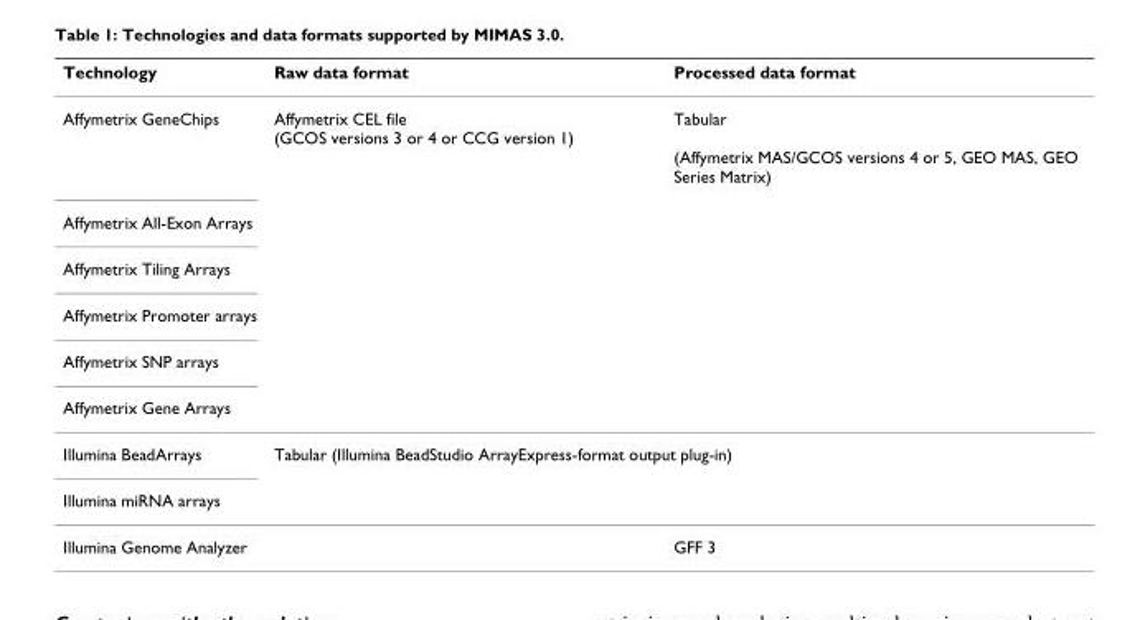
<table><thead><tr><td>Technology</td><td>Raw data format</td><td>Processed data format</td></tr></thead><tbody><tr><td>Affymetrix GeneChips</td><td>Affymetrix CEL file (GCOS versions 3 or 4 or CCG version 1)</td><td>Tabular (Affymetrix MAS/GCOS versions 4 or 5, GEO MAS, GEO Series Matrix)</td></tr><tr><td colspan="3">Affymetrix All-Exon Arrays</td></tr><tr><td colspan="3">Affymetrix Tiling Arrays</td></tr><tr><td colspan="3">Affymetrix Promoter arrays</td></tr><tr><td colspan="3">Affymetrix SNP arrays</td></tr><tr><td colspan="3">Affymetrix Gene Arrays</td></tr><tr><td>Illumina BeadArrays</td><td colspan="2">Tabular (Illumina BeadStudio ArrayExpress-format output plug-in)</td></tr><tr><td colspan="3">Illumina miRNA arrays</td></tr><tr><td>Illumina Genome Analyzer</td><td></td><td>GFF 3</td></tr></tbody></table>